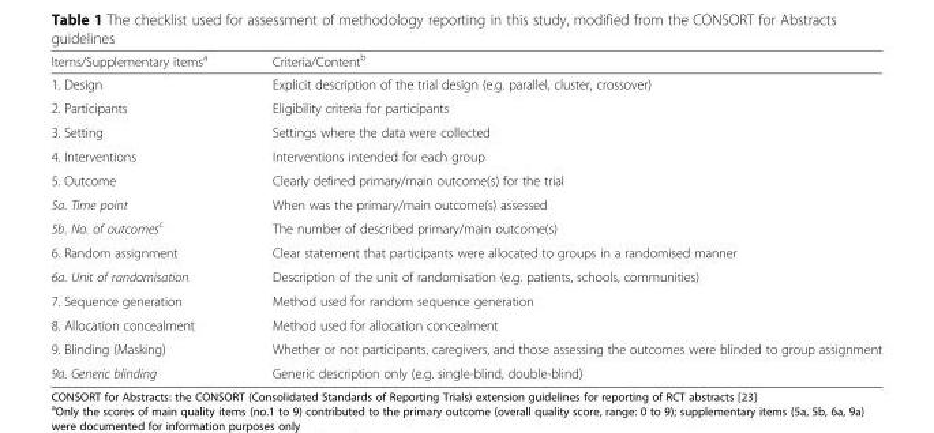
<table><thead><tr><td>Items/Supplementary items<sup>a</sup></td><td>Criteria/Content<sup>b</sup></td></tr></thead><tbody><tr><td>1. Design</td><td>Explicit description of the trial design (e.g. parallel, cluster, crossover)</td></tr><tr><td>2. Participants</td><td>Eligibility criteria for participants</td></tr><tr><td>3. Setting</td><td>Settings where the data were collected</td></tr><tr><td>4. Interventions</td><td>Interventions intended for each group</td></tr><tr><td>5. Outcome</td><td>Clearly defined primary/main outcome(s) for the trial</td></tr><tr><td>5a. Time point</td><td>When was the primary/main outcome(s) assessed</td></tr><tr><td>5b. No. of outcomes<sup>c</sup></td><td>The number of described primary/main outcome(s)</td></tr><tr><td>6. Random assignment</td><td>Clear statement that participants were allocated to groups in a randomised manner</td></tr><tr><td>6a. Unit of randomisation</td><td>Description of the unit of randomisation (e.g. patients, schools, communities)</td></tr><tr><td>7. Sequence generation</td><td>Method used for random sequence generation</td></tr><tr><td>8. Allocation concealment</td><td>Method used for allocation concealment</td></tr><tr><td>9. Blinding (Masking)</td><td>Whether or not participants, caregivers, and those assessing the outcomes were blinded to group assignment</td></tr><tr><td>9a. Generic blinding</td><td>Generic description only (e.g. single-blind, double-blind)</td></tr></tbody></table>